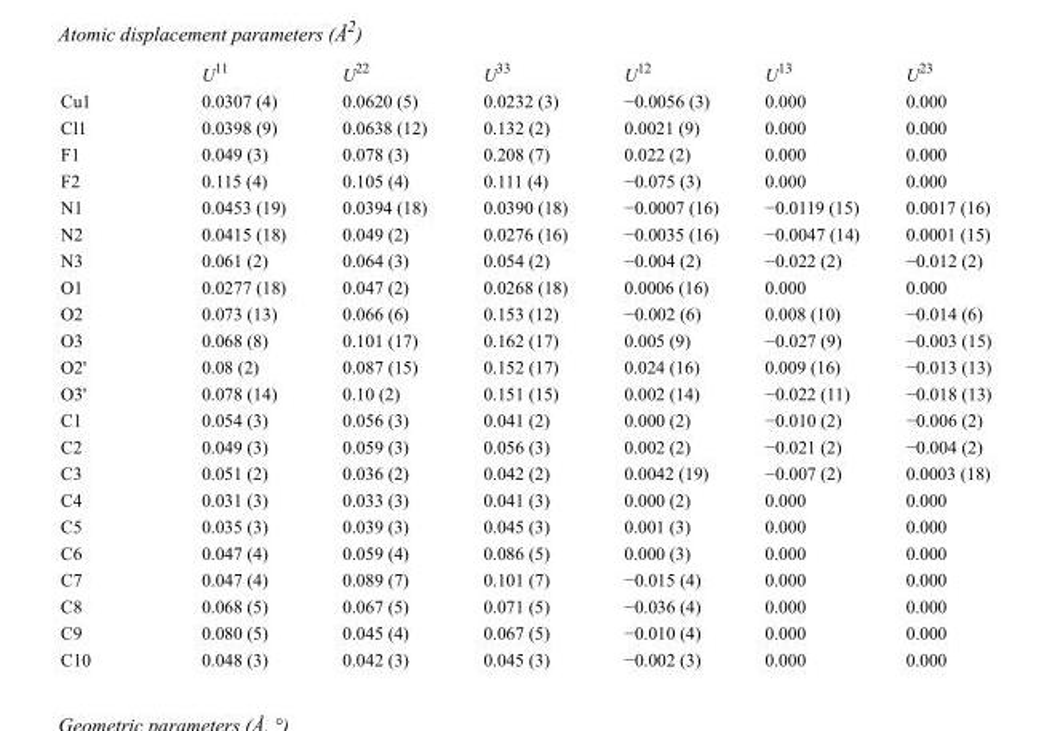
<table><thead><tr><td></td><td>U<sup>11</sup></td><td>U<sup>22</sup></td><td>U<sup>33</sup></td><td>U<sup>12</sup></td><td>U<sup>13</sup></td><td>U<sup>23</sup></td></tr></thead><tbody><tr><td>Cu1</td><td>0.0307 (4)</td><td>0.0620 (5)</td><td>0.0232 (3)</td><td>−0.0056 (3)</td><td>0.000</td><td>0.000</td></tr><tr><td>Cl1</td><td>0.0398 (9)</td><td>0.0638 (12)</td><td>0.132 (2)</td><td>0.0021 (9)</td><td>0.000</td><td>0.000</td></tr><tr><td>F1</td><td>0.049 (3)</td><td>0.078 (3)</td><td>0.208 (7)</td><td>0.022 (2)</td><td>0.000</td><td>0.000</td></tr><tr><td>F2</td><td>0.115 (4)</td><td>0.105 (4)</td><td>0.111 (4)</td><td>−0.075 (3)</td><td>0.000</td><td>0.000</td></tr><tr><td>N1</td><td>0.0453 (19)</td><td>0.0394 (18)</td><td>0.0390 (18)</td><td>−0.0007 (16)</td><td>−0.0119 (15)</td><td>0.0017 (16)</td></tr><tr><td>N2</td><td>0.0415 (18)</td><td>0.049 (2)</td><td>0.0276 (16)</td><td>−0.0035 (16)</td><td>−0.0047 (14)</td><td>0.0001 (15)</td></tr><tr><td>N3</td><td>0.061 (2)</td><td>0.064 (3)</td><td>0.054 (2)</td><td>−0.004 (2)</td><td>−0.022 (2)</td><td>−0.012 (2)</td></tr><tr><td>O1</td><td>0.0277 (18)</td><td>0.047 (2)</td><td>0.0268 (18)</td><td>0.0006 (16)</td><td>0.000</td><td>0.000</td></tr><tr><td>O2</td><td>0.073 (13)</td><td>0.066 (6)</td><td>0.153 (12)</td><td>−0.002 (6)</td><td>0.008 (10)</td><td>−0.014 (6)</td></tr><tr><td>O3</td><td>0.068 (8)</td><td>0.101 (17)</td><td>0.162 (17)</td><td>0.005 (9)</td><td>−0.027 (9)</td><td>−0.003 (15)</td></tr><tr><td>O2&#x27;</td><td>0.08 (2)</td><td>0.087 (15)</td><td>0.152 (17)</td><td>0.024 (16)</td><td>0.009 (16)</td><td>−0.013 (13)</td></tr><tr><td>O3&#x27;</td><td>0.078 (14)</td><td>0.10 (2)</td><td>0.151 (15)</td><td>0.002 (14)</td><td>−0.022 (11)</td><td>−0.018 (13)</td></tr><tr><td>C1</td><td>0.054 (3)</td><td>0.056 (3)</td><td>0.041 (2)</td><td>0.000 (2)</td><td>−0.010 (2)</td><td>−0.006 (2)</td></tr><tr><td>C2</td><td>0.049 (3)</td><td>0.059 (3)</td><td>0.056 (3)</td><td>0.002 (2)</td><td>−0.021 (2)</td><td>−0.004 (2)</td></tr><tr><td>C3</td><td>0.051 (2)</td><td>0.036 (2)</td><td>0.042 (2)</td><td>0.0042 (19)</td><td>−0.007 (2)</td><td>0.0003 (18)</td></tr><tr><td>C4</td><td>0.031 (3)</td><td>0.033 (3)</td><td>0.041 (3)</td><td>0.000 (2)</td><td>0.000</td><td>0.000</td></tr><tr><td>C5</td><td>0.035 (3)</td><td>0.039 (3)</td><td>0.045 (3)</td><td>0.001 (3)</td><td>0.000</td><td>0.000</td></tr><tr><td>C6</td><td>0.047 (4)</td><td>0.059 (4)</td><td>0.086 (5)</td><td>0.000 (3)</td><td>0.000</td><td>0.000</td></tr><tr><td>C7</td><td>0.047 (4)</td><td>0.089 (7)</td><td>0.101 (7)</td><td>−0.015 (4)</td><td>0.000</td><td>0.000</td></tr><tr><td>C8</td><td>0.068 (5)</td><td>0.067 (5)</td><td>0.071 (5)</td><td>−0.036 (4)</td><td>0.000</td><td>0.000</td></tr><tr><td>C9</td><td>0.080 (5)</td><td>0.045 (4)</td><td>0.067 (5)</td><td>−0.010 (4)</td><td>0.000</td><td>0.000</td></tr><tr><td>C10</td><td>0.048 (3)</td><td>0.042 (3)</td><td>0.045 (3)</td><td>−0.002 (3)</td><td>0.000</td><td>0.000</td></tr></tbody></table>